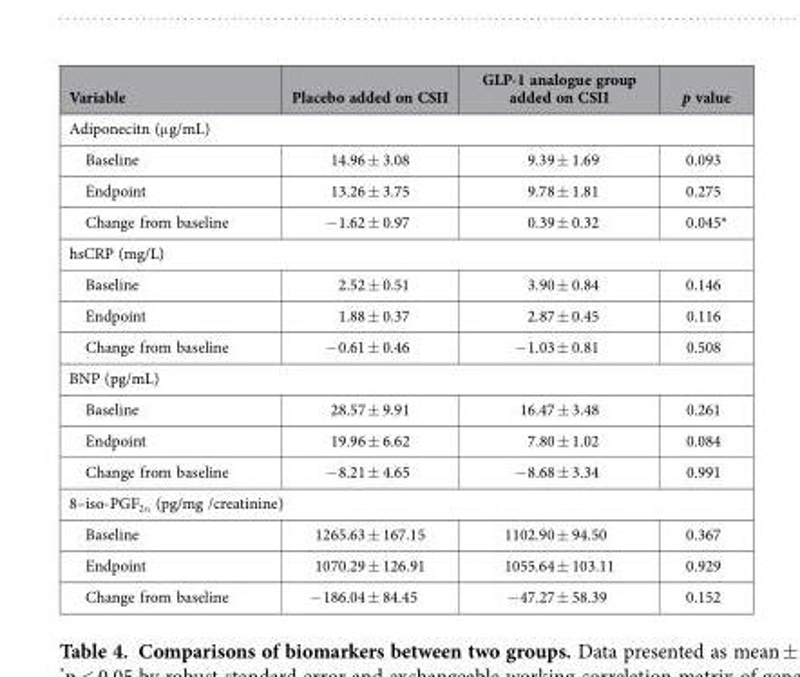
<table><thead><tr><td>Variable</td><td>Placebo added on CSII</td><td>GLP-1 analogue group added on CSII</td><td>p value</td></tr></thead><tbody><tr><td colspan="4">Adiponecitn (μ g/mL)</td></tr><tr><td>Baseline</td><td>14.96 ± 3.08</td><td>9.39 ± 1.69</td><td>0.093</td></tr><tr><td>Endpoint</td><td>13.26 ± 3.75</td><td>9.78 ± 1.81</td><td>0.275</td></tr><tr><td>Change from baseline</td><td>− 1.62 ± 0.97</td><td>0.39 ± 0.32</td><td>0.045*</td></tr><tr><td colspan="4">hsCRP (mg/L)</td></tr><tr><td>Baseline</td><td>2.52 ± 0.51</td><td>3.90 ± 0.84</td><td>0.146</td></tr><tr><td>Endpoint</td><td>1.88 ± 0.37</td><td>2.87 ± 0.45</td><td>0.116</td></tr><tr><td>Change from baseline</td><td>− 0.61 ± 0.46</td><td>− 1.03 ± 0.81</td><td>0.508</td></tr><tr><td colspan="4">BNP (pg/mL)</td></tr><tr><td>Baseline</td><td>28.57 ± 9.91</td><td>16.47 ± 3.48</td><td>0.261</td></tr><tr><td>Endpoint</td><td>19.96 ± 6.62</td><td>7.80 ± 1.02</td><td>0.084</td></tr><tr><td>Change from baseline</td><td>− 8.21 ± 4.65</td><td>− 8.68 ± 3.34</td><td>0.991</td></tr><tr><td colspan="4">8–iso-PGF<sub>2α</sub> (pg/mg /creatinine)</td></tr><tr><td>Baseline</td><td>1265.63 ± 167.15</td><td>1102.90 ± 94.50</td><td>0.367</td></tr><tr><td>Endpoint</td><td>1070.29 ± 126.91</td><td>1055.64 ± 103.11</td><td>0.929</td></tr><tr><td>Change from baseline</td><td>− 186.04 ± 84.45</td><td>− 47.27 ± 58.39</td><td>0.152</td></tr></tbody></table>